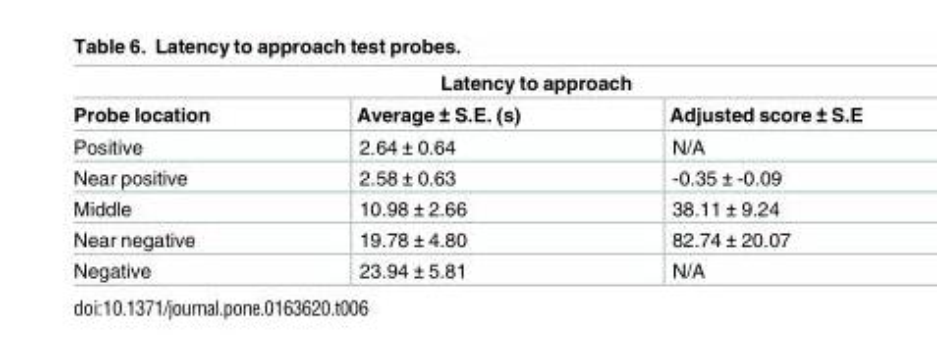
<table><thead><tr><td colspan="3">Latency to approach</td></tr><tr><td>Probe location</td><td>Average ± S.E. (s)</td><td>Adjusted score ± S.E</td></tr></thead><tbody><tr><td>Positive</td><td>2.64 ± 0.64</td><td>N/A</td></tr><tr><td>Near positive</td><td>2.58 ± 0.63</td><td>-0.35 ± -0.09</td></tr><tr><td>Middle</td><td>10.98 ± 2.66</td><td>38.11 ± 9.24</td></tr><tr><td>Near negative</td><td>19.78 ± 4.80</td><td>82.74 ± 20.07</td></tr><tr><td>Negative</td><td>23.94 ± 5.81</td><td>N/A</td></tr></tbody></table>